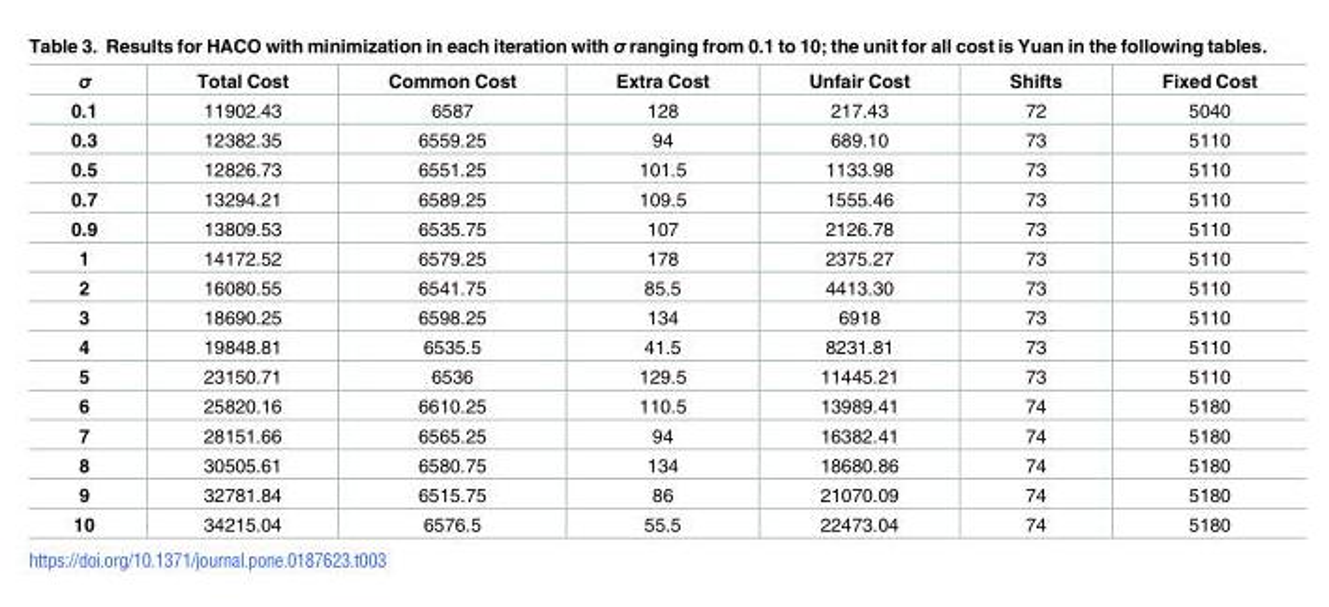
<table><thead><tr><td>σ</td><td>Total Cost</td><td>Common Cost</td><td>Extra Cost</td><td>Unfair Cost</td><td>Shifts</td><td>Fixed Cost</td></tr></thead><tbody><tr><td>0.1</td><td>11902.43</td><td>6587</td><td>128</td><td>217.43</td><td>72</td><td>5040</td></tr><tr><td>0.3</td><td>12382.35</td><td>6559.25</td><td>94</td><td>689.10</td><td>73</td><td>5110</td></tr><tr><td>0.5</td><td>12826.73</td><td>6551.25</td><td>101.5</td><td>1133.98</td><td>73</td><td>5110</td></tr><tr><td>0.7</td><td>13294.21</td><td>6589.25</td><td>109.5</td><td>1555.46</td><td>73</td><td>5110</td></tr><tr><td>0.9</td><td>13809.53</td><td>6535.75</td><td>107</td><td>2126.78</td><td>73</td><td>5110</td></tr><tr><td>1</td><td>14172.52</td><td>6579.25</td><td>178</td><td>2375.27</td><td>73</td><td>5110</td></tr><tr><td>2</td><td>16080.55</td><td>6541.75</td><td>85.5</td><td>4413.30</td><td>73</td><td>5110</td></tr><tr><td>3</td><td>18690.25</td><td>6598.25</td><td>134</td><td>6918</td><td>73</td><td>5110</td></tr><tr><td>4</td><td>19848.81</td><td>6535.5</td><td>41.5</td><td>8231.81</td><td>73</td><td>5110</td></tr><tr><td>5</td><td>23150.71</td><td>6536</td><td>129.5</td><td>11445.21</td><td>73</td><td>5110</td></tr><tr><td>6</td><td>25820.16</td><td>6610.25</td><td>110.5</td><td>13989.41</td><td>74</td><td>5180</td></tr><tr><td>7</td><td>28151.66</td><td>6565.25</td><td>94</td><td>16382.41</td><td>74</td><td>5180</td></tr><tr><td>8</td><td>30505.61</td><td>6580.75</td><td>134</td><td>18680.86</td><td>74</td><td>5180</td></tr><tr><td>9</td><td>32781.84</td><td>6515.75</td><td>86</td><td>21070.09</td><td>74</td><td>5180</td></tr><tr><td>10</td><td>34215.04</td><td>6576.5</td><td>55.5</td><td>22473.04</td><td>74</td><td>5180</td></tr></tbody></table>